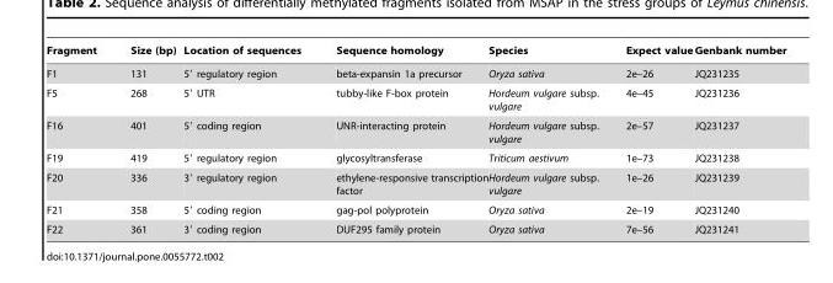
<table><thead><tr><td>Fragment</td><td>Size (bp)</td><td>Location of sequences</td><td>Sequence homology</td><td>Species</td><td>Expect value</td><td>Genbank number</td></tr></thead><tbody><tr><td>F1</td><td>131</td><td>5′ regulatory region</td><td>beta-expansin 1a precursor</td><td>Oryza sativa</td><td>2e–26</td><td>JQ231235</td></tr><tr><td>F5</td><td>268</td><td>5′ UTR</td><td>tubby-like F-box protein</td><td>Hordeum vulgare subsp. vulgare</td><td>4e–45</td><td>JQ231236</td></tr><tr><td>F16</td><td>401</td><td>5′ coding region</td><td>UNR-interacting protein</td><td>Hordeum vulgare subsp. vulgare</td><td>2e–57</td><td>JQ231237</td></tr><tr><td>F19</td><td>419</td><td>5′ regulatory region</td><td>glycosyltransferase</td><td>Triticum aestivum</td><td>1e–73</td><td>JQ231238</td></tr><tr><td>F20</td><td>336</td><td>3′ regulatory region</td><td>ethylene-responsive transcription factor</td><td>Hordeum vulgare subsp. vulgare</td><td>1e–26</td><td>JQ231239</td></tr><tr><td>F21</td><td>358</td><td>5′ coding region</td><td>gag-pol polyprotein</td><td>Oryza sativa</td><td>2e–19</td><td>JQ231240</td></tr><tr><td>F22</td><td>361</td><td>3′ coding region</td><td>DUF295 family protein</td><td>Oryza sativa</td><td>7e–56</td><td>JQ231241</td></tr></tbody></table>